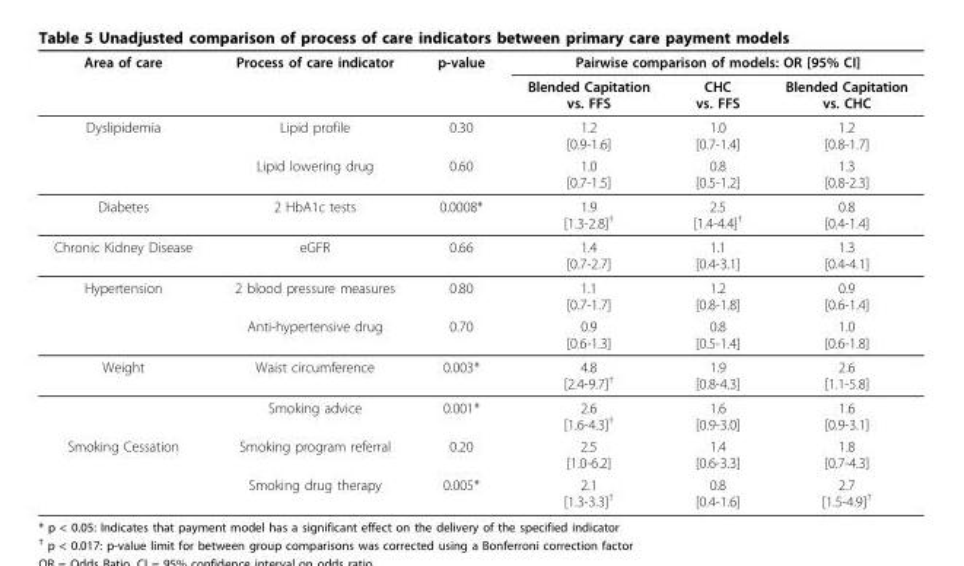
<table><thead><tr><td rowspan="2">Area of care</td><td rowspan="2">Process of care indicator</td><td rowspan="2">p-value</td><td colspan="3">Pairwise comparison of models: OR [95% CI]</td></tr><tr><td>Blended Capitation vs. FFS</td><td>CHC vs. FFS</td><td>Blended Capitation vs. CHC</td></tr></thead><tbody><tr><td rowspan="2">Dyslipidemia</td><td>Lipid profile</td><td>0.30</td><td>1.2 [0.9-1.6]</td><td>1.0 [0.7-1.4]</td><td>1.2 [0.8-1.7]</td></tr><tr><td>Lipid lowering drug</td><td>0.60</td><td>1.0 [0.7-1.5]</td><td>0.8 [0.5-1.2]</td><td>1.3 [0.8-2.3]</td></tr><tr><td>Diabetes</td><td>2 HbA1c tests</td><td>0.0008*</td><td>1.9 [1.3-2.8]<sup>†</sup></td><td>2.5 [1.4-4.4]<sup>†</sup></td><td>0.8 [0.4-1.4]</td></tr><tr><td>Chronic Kidney Disease</td><td>eGFR</td><td>0.66</td><td>1.4 [0.7-2.7]</td><td>1.1 [0.4-3.1]</td><td>1.3 [0.4-4.1]</td></tr><tr><td rowspan="2">Hypertension</td><td>2 blood pressure measures</td><td>0.80</td><td>1.1 [0.7-1.7]</td><td>1.2 [0.8-1.8]</td><td>0.9 [0.6-1.4]</td></tr><tr><td>Anti-hypertensive drug</td><td>0.70</td><td>0.9 [0.6-1.3]</td><td>0.8 [0.5-1.4]</td><td>1.0 [0.6-1.8]</td></tr><tr><td rowspan="2">Weight</td><td>Waist circumference</td><td>0.003*</td><td>4.8 [2.4-9.7]<sup>†</sup></td><td>1.9 [0.8-4.3]</td><td>2.6 [1.1-5.8]</td></tr><tr><td>Smoking advice</td><td>0.001*</td><td>2.6 [1.6-4.3]<sup>†</sup></td><td>1.6 [0.9-3.0]</td><td>1.6 [0.9-3.1]</td></tr><tr><td rowspan="2">Smoking Cessation</td><td>Smoking program referral</td><td>0.20</td><td>2.5 [1.0-6.2]</td><td>1.4 [0.6-3.3]</td><td>1.8 [0.7-4.3]</td></tr><tr><td>Smoking drug therapy</td><td>0.005*</td><td>2.1 [1.3-3.3]<sup>†</sup></td><td>0.8 [0.4-1.6]</td><td>2.7 [1.5-4.9]<sup>†</sup></td></tr></tbody></table>